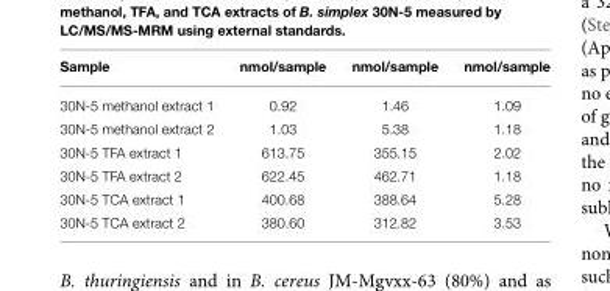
<table><thead><tr><td>Sample</td><td>nmol/sample</td><td>nmol/sample</td><td>nmol/sample</td></tr></thead><tbody><tr><td>30N-5 methanol extract 1</td><td>0.92</td><td>1.46</td><td>1.09</td></tr><tr><td>30N-5 methanol extract 2</td><td>1.03</td><td>5.38</td><td>1.18</td></tr><tr><td>30N-5 TFA extract 1</td><td>613.75</td><td>355.15</td><td>2.02</td></tr><tr><td>30N-5 TFA extract 2</td><td>622.45</td><td>462.71</td><td>1.18</td></tr><tr><td>30N-5 TCA extract 1</td><td>400.68</td><td>388.64</td><td>5.28</td></tr><tr><td>30N-5 TCA extract 2</td><td>380.60</td><td>312.82</td><td>3.53</td></tr></tbody></table>